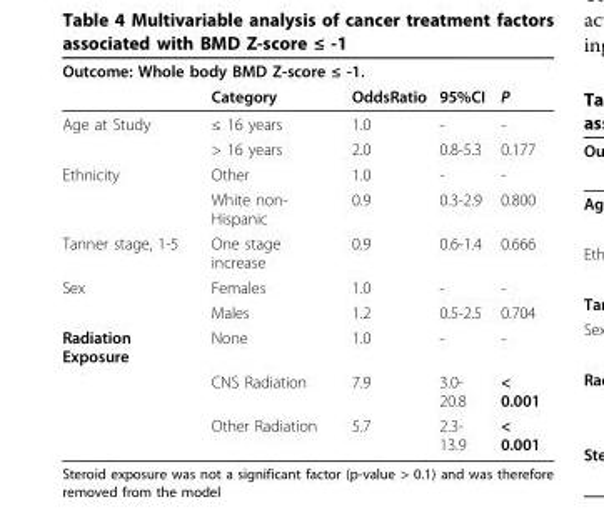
<table><thead><tr><td colspan="5">Outcome: Whole body BMD Z-score ≤ -1.</td></tr><tr><td></td><td>Category</td><td>OddsRatio</td><td>95%CI</td><td>P</td></tr></thead><tbody><tr><td rowspan="2">Age at Study</td><td>≤ 16 years</td><td>1.0</td><td>-</td><td>-</td></tr><tr><td>&gt; 16 years</td><td>2.0</td><td>0.8-5.3</td><td>0.177</td></tr><tr><td rowspan="2">Ethnicity</td><td>Other</td><td>1.0</td><td>-</td><td>-</td></tr><tr><td>White non- Hispanic</td><td>0.9</td><td>0.3-2.9</td><td>0.800</td></tr><tr><td>Tanner stage, 1-5</td><td>One stage increase</td><td>0.9</td><td>0.6-1.4</td><td>0.666</td></tr><tr><td rowspan="2">Sex</td><td>Females</td><td>1.0</td><td>-</td><td>-</td></tr><tr><td>Males</td><td>1.2</td><td>0.5-2.5</td><td>0.704</td></tr><tr><td rowspan="3">Radiation Exposure</td><td>None</td><td>1.0</td><td>-</td><td>-</td></tr><tr><td>CNS Radiation</td><td>7.9</td><td>3.0- 20.8</td><td>&lt; 0.001</td></tr><tr><td>Other Radiation</td><td>5.7</td><td>2.3- 13.9</td><td>&lt; 0.001</td></tr></tbody></table>